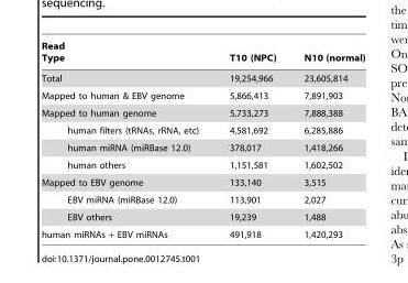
<table><thead><tr><td>Read Type</td><td></td><td>T10 (NPC)</td><td>N10 (normal)</td></tr></thead><tbody><tr><td>Total</td><td></td><td>19,254,966</td><td>23,605,814</td></tr><tr><td colspan="2">Mapped to human &amp; EBV genome</td><td>5,866,413</td><td>7,891,903</td></tr><tr><td colspan="2">Mapped to human genome</td><td>5,733,273</td><td>7,888,388</td></tr><tr><td></td><td>human filters (tRNAs, rRNA, etc)</td><td>4,581,692</td><td>6,285,886</td></tr><tr><td></td><td>human miRNA (miRBase 12.0)</td><td>378,017</td><td>1,418,266</td></tr><tr><td></td><td>human others</td><td>1,151,581</td><td>1,602,502</td></tr><tr><td colspan="2">Mapped to EBV genome</td><td>133,140</td><td>3,515</td></tr><tr><td></td><td>EBV miRNA (miRBase 12.0)</td><td>113,901</td><td>2,027</td></tr><tr><td></td><td>EBV others</td><td>19,239</td><td>1,488</td></tr><tr><td colspan="2">human miRNAs + EBV miRNAs</td><td>491,918</td><td>1,420,293</td></tr></tbody></table>